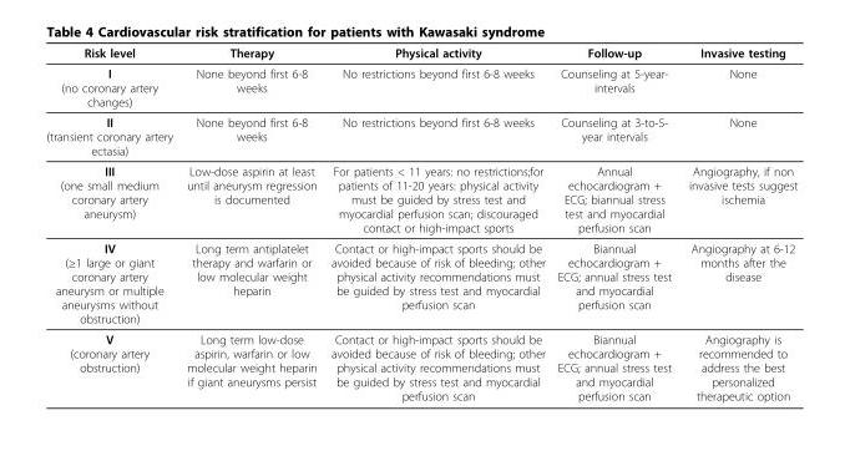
<table><thead><tr><td>Risk level</td><td>Therapy</td><td>Physical activity</td><td>Follow-up</td><td>Invasive testing</td></tr></thead><tbody><tr><td>I (no coronary artery changes)</td><td>None beyond first 6-8 weeks</td><td>No restrictions beyond first 6-8 weeks</td><td>Counseling at 5-year- intervals</td><td>None</td></tr><tr><td>II (transient coronary artery ectasia)</td><td>None beyond first 6-8 weeks</td><td>No restrictions beyond first 6-8 weeks</td><td>Counseling at 3-to-5- year intervals</td><td>None</td></tr><tr><td>III (one small medium coronary artery aneurysm)</td><td>Low-dose aspirin at least until aneurysm regression is documented</td><td>For patients &lt; 11 years: no restrictions;for patients of 11-20 years: physical activity must be guided by stress test and myocardial perfusion scan; discouraged contact or high-impact sports</td><td>Annual echocardiogram + ECG; biannual stress test and myocardial perfusion scan</td><td>Angiography, if non invasive tests suggest ischemia</td></tr><tr><td>IV (≥1 large or giant coronary artery aneurysm or multiple aneurysms without obstruction)</td><td>Long term antiplatelet therapy and warfarin or low molecular weight heparin</td><td>Contact or high-impact sports should be avoided because of risk of bleeding; other physical activity recommendations must be guided by stress test and myocardial perfusion scan</td><td>Biannual echocardiogram + ECG; annual stress test and myocardial perfusion scan</td><td>Angiography at 6-12 months after the disease</td></tr><tr><td>V (coronary artery obstruction)</td><td>Long term low-dose aspirin, warfarin or low molecular weight heparin if giant aneurysms persist</td><td>Contact or high-impact sports should be avoided because of risk of bleeding; other physical activity recommendations must be guided by stress test and myocardial perfusion scan</td><td>Biannual echocardiogram + ECG; annual stress test and myocardial perfusion scan</td><td>Angiography is recommended to address the best personalized therapeutic option</td></tr></tbody></table>